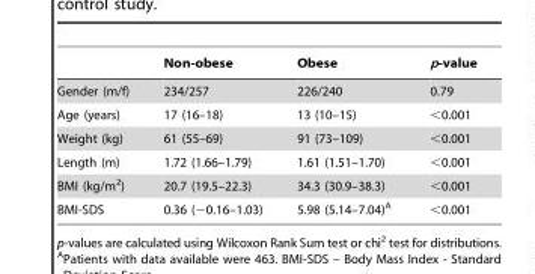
<table><thead><tr><td></td><td>Non-obese</td><td>Obese</td><td>p-value</td></tr></thead><tbody><tr><td>Gender (m/f)</td><td>234/257</td><td>226/240</td><td>0.79</td></tr><tr><td>Age (years)</td><td>17 (16–18)</td><td>13 (10–15)</td><td>&lt;0.001</td></tr><tr><td>Weight (kg)</td><td>61 (55–69)</td><td>91 (73–109)</td><td>&lt;0.001</td></tr><tr><td>Length (m)</td><td>1.72 (1.66–1.79)</td><td>1.61 (1.51–1.70)</td><td>&lt;0.001</td></tr><tr><td>BMI (kg/m<sup>2</sup>)</td><td>20.7 (19.5–22.3)</td><td>34.3 (30.9–38.3)</td><td>&lt;0.001</td></tr><tr><td>BMI-SDS</td><td>0.36 (−0.16–1.03)</td><td>5.98 (5.14–7.04)<sup>A</sup></td><td>&lt;0.001</td></tr></tbody></table>